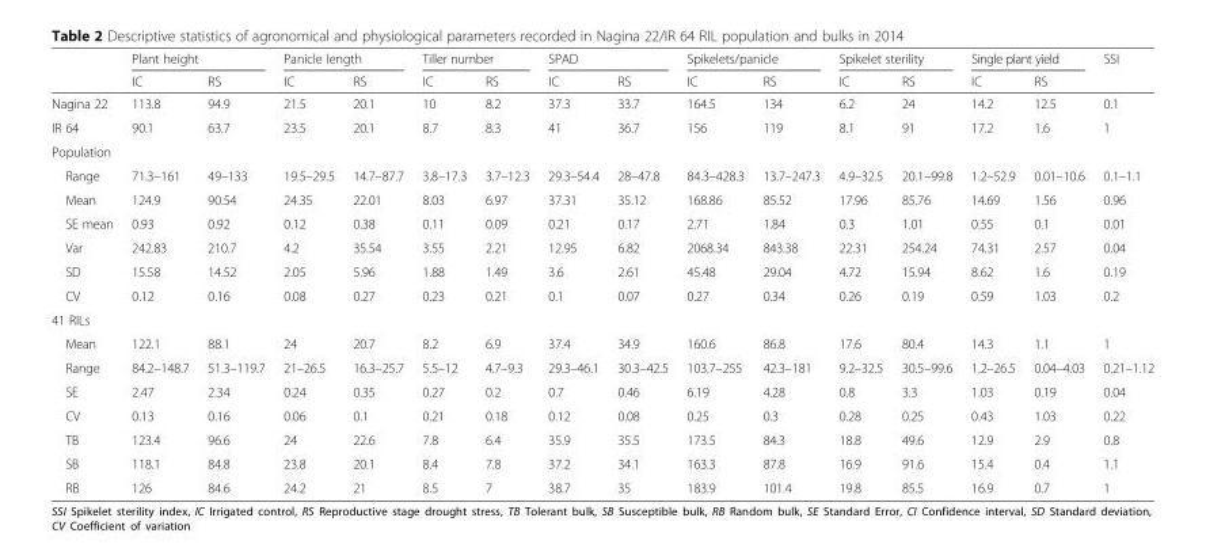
<table><thead><tr><td rowspan="2"></td><td colspan="2">Plant height</td><td colspan="2">Panicle length</td><td colspan="2">Tiller number</td><td colspan="2">SPAD</td><td colspan="2">Spikelets/panicle</td><td colspan="2">Spikelet sterility</td><td colspan="2">Single plant yield</td><td rowspan="2">SSI</td></tr><tr><td>IC</td><td>RS</td><td>IC</td><td>RS</td><td>IC</td><td>RS</td><td>IC</td><td>RS</td><td>IC</td><td>RS</td><td>IC</td><td>RS</td><td>IC</td><td>RS</td></tr></thead><tbody><tr><td>Nagina 22</td><td>113.8</td><td>94.9</td><td>21.5</td><td>20.1</td><td>10</td><td>8.2</td><td>37.3</td><td>33.7</td><td>164.5</td><td>134</td><td>6.2</td><td>24</td><td>14.2</td><td>12.5</td><td>0.1</td></tr><tr><td>IR 64</td><td>90.1</td><td>63.7</td><td>23.5</td><td>20.1</td><td>8.7</td><td>8.3</td><td>41</td><td>36.7</td><td>156</td><td>119</td><td>8.1</td><td>91</td><td>17.2</td><td>1.6</td><td>1</td></tr><tr><td colspan="16">Population</td></tr><tr><td>Range</td><td>71.3–161</td><td>49–133</td><td>19.5–29.5</td><td>14.7–87.7</td><td>3.8–17.3</td><td>3.7–12.3</td><td>29.3–54.4</td><td>28–47.8</td><td>84.3–428.3</td><td>13.7–247.3</td><td>4.9–32.5</td><td>20.1–99.8</td><td>1.2–52.9</td><td>0.01–10.6</td><td>0.1–1.1</td></tr><tr><td>Mean</td><td>124.9</td><td>90.54</td><td>24.35</td><td>22.01</td><td>8.03</td><td>6.97</td><td>37.31</td><td>35.12</td><td>168.86</td><td>85.52</td><td>17.96</td><td>85.76</td><td>14.69</td><td>1.56</td><td>0.96</td></tr><tr><td>SE mean</td><td>0.93</td><td>0.92</td><td>0.12</td><td>0.38</td><td>0.11</td><td>0.09</td><td>0.21</td><td>0.17</td><td>2.71</td><td>1.84</td><td>0.3</td><td>1.01</td><td>0.55</td><td>0.1</td><td>0.01</td></tr><tr><td>Var</td><td>242.83</td><td>210.7</td><td>4.2</td><td>35.54</td><td>3.55</td><td>2.21</td><td>12.95</td><td>6.82</td><td>2068.34</td><td>843.38</td><td>22.31</td><td>254.24</td><td>74.31</td><td>2.57</td><td>0.04</td></tr><tr><td>SD</td><td>15.58</td><td>14.52</td><td>2.05</td><td>5.96</td><td>1.88</td><td>1.49</td><td>3.6</td><td>2.61</td><td>45.48</td><td>29.04</td><td>4.72</td><td>15.94</td><td>8.62</td><td>1.6</td><td>0.19</td></tr><tr><td>CV</td><td>0.12</td><td>0.16</td><td>0.08</td><td>0.27</td><td>0.23</td><td>0.21</td><td>0.1</td><td>0.07</td><td>0.27</td><td>0.34</td><td>0.26</td><td>0.19</td><td>0.59</td><td>1.03</td><td>0.2</td></tr><tr><td colspan="16">41 RILs</td></tr><tr><td>Mean</td><td>122.1</td><td>88.1</td><td>24</td><td>20.7</td><td>8.2</td><td>6.9</td><td>37.4</td><td>34.9</td><td>160.6</td><td>86.8</td><td>17.6</td><td>80.4</td><td>14.3</td><td>1.1</td><td>1</td></tr><tr><td>Range</td><td>84.2–148.7</td><td>51.3–119.7</td><td>21–26.5</td><td>16.3–25.7</td><td>5.5–12</td><td>4.7–9.3</td><td>29.3–46.1</td><td>30.3–42.5</td><td>103.7–255</td><td>42.3–181</td><td>9.2–32.5</td><td>30.5–99.6</td><td>1.2–26.5</td><td>0.04–4.03</td><td>0.21–1.12</td></tr><tr><td>SE</td><td>2.47</td><td>2.34</td><td>0.24</td><td>0.35</td><td>0.27</td><td>0.2</td><td>0.7</td><td>0.46</td><td>6.19</td><td>4.28</td><td>0.8</td><td>3.3</td><td>1.03</td><td>0.19</td><td>0.04</td></tr><tr><td>CV</td><td>0.13</td><td>0.16</td><td>0.06</td><td>0.1</td><td>0.21</td><td>0.18</td><td>0.12</td><td>0.08</td><td>0.25</td><td>0.3</td><td>0.28</td><td>0.25</td><td>0.43</td><td>1.03</td><td>0.22</td></tr><tr><td>TB</td><td>123.4</td><td>96.6</td><td>24</td><td>22.6</td><td>7.8</td><td>6.4</td><td>35.9</td><td>35.5</td><td>173.5</td><td>84.3</td><td>18.8</td><td>49.6</td><td>12.9</td><td>2.9</td><td>0.8</td></tr><tr><td>SB</td><td>118.1</td><td>84.8</td><td>23.8</td><td>20.1</td><td>8.4</td><td>7.8</td><td>37.2</td><td>34.1</td><td>163.3</td><td>87.8</td><td>16.9</td><td>91.6</td><td>15.4</td><td>0.4</td><td>1.1</td></tr><tr><td>RB</td><td>126</td><td>84.6</td><td>24.2</td><td>21</td><td>8.5</td><td>7</td><td>38.7</td><td>35</td><td>183.9</td><td>101.4</td><td>19.8</td><td>85.5</td><td>16.9</td><td>0.7</td><td>1</td></tr></tbody></table>